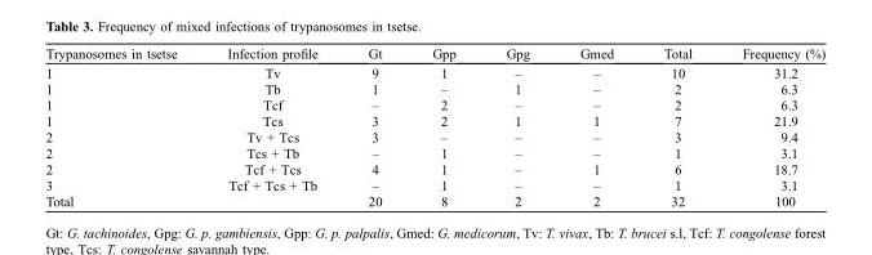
<table><thead><tr><td>Trypanosomes in tsetse</td><td>Infection profile</td><td>Gt</td><td>Gpp</td><td>Gpg</td><td>Gmed</td><td>Total</td><td>Frequency (%)</td></tr></thead><tbody><tr><td>1</td><td>Tv</td><td>9</td><td>1</td><td>–</td><td>–</td><td>10</td><td>31.2</td></tr><tr><td>1</td><td>Tb</td><td>1</td><td>–</td><td>1</td><td>–</td><td>2</td><td>6.3</td></tr><tr><td>1</td><td>Tcf</td><td>–</td><td>2</td><td>–</td><td>–</td><td>2</td><td>6.3</td></tr><tr><td>1</td><td>Tcs</td><td>3</td><td>2</td><td>1</td><td>1</td><td>7</td><td>21.9</td></tr><tr><td>2</td><td>Tv + Tcs</td><td>3</td><td>–</td><td>–</td><td>–</td><td>3</td><td>9.4</td></tr><tr><td>2</td><td>Tcs + Tb</td><td>–</td><td>1</td><td>–</td><td>–</td><td>1</td><td>3.1</td></tr><tr><td>2</td><td>Tcf + Tcs</td><td>4</td><td>1</td><td>–</td><td>1</td><td>6</td><td>18.7</td></tr><tr><td>3</td><td>Tcf + Tcs + Tb</td><td>–</td><td>1</td><td>–</td><td>–</td><td>1</td><td>3.1</td></tr><tr><td>Total</td><td></td><td>20</td><td>8</td><td>2</td><td>2</td><td>32</td><td>100</td></tr></tbody></table>